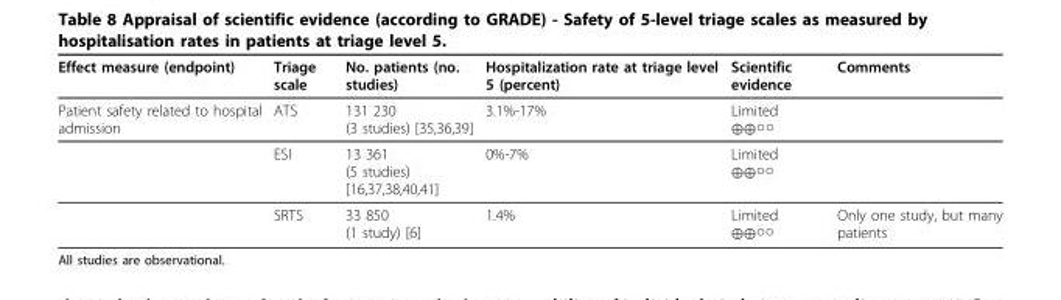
<table><thead><tr><td>Effect measure (endpoint)</td><td>Triage scale</td><td>No. patients (no. studies)</td><td>Hospitalization rate at triage level 5 (percent)</td><td>Scientific evidence</td><td>Comments</td></tr></thead><tbody><tr><td rowspan="3">Patient safety related to hospital admission</td><td>ATS</td><td>131 230 (3 studies) [35,36,39]</td><td>3.1%-17%</td><td>Limited ⊕⊕○○</td><td></td></tr><tr><td>ESI</td><td>13 361 (5 studies) [16,37,38,40,41]</td><td>0%-7%</td><td>Limited ⊕⊕○○</td><td></td></tr><tr><td>SRTS</td><td>33 850 (1 study) [6]</td><td>1.4%</td><td>Limited ⊕⊕○○</td><td>Only one study, but many patients</td></tr></tbody></table>